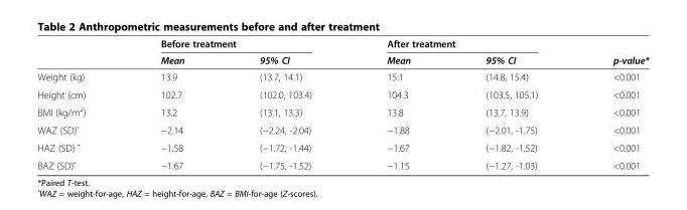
<table><thead><tr><td rowspan="2"></td><td colspan="2">Before treatment</td><td colspan="2">After treatment</td><td rowspan="2">p-value*</td></tr><tr><td>Mean</td><td>95% CI</td><td>Mean</td><td>95% CI</td></tr></thead><tbody><tr><td>Weight (kg)</td><td>13.9</td><td>(13.7, 14.1)</td><td>15.1</td><td>(14.8, 15.4)</td><td>&lt;0.001</td></tr><tr><td>Height (cm)</td><td>102.7</td><td>(102.0, 103.4)</td><td>104.3</td><td>(103.5, 105.1)</td><td>&lt;0.001</td></tr><tr><td>BMI (kg/m<sup>2</sup>)</td><td>13.2</td><td>(13.1, 13.3)</td><td>13.8</td><td>(13.7, 13.9)</td><td>&lt;0.001</td></tr><tr><td>WAZ (SD)<sup>•</sup></td><td>−2.14</td><td>(−2.24, -2.04)</td><td>−1.88</td><td>(−2.01, -1.75)</td><td>&lt;0.001</td></tr><tr><td>HAZ (SD) <sup>•</sup></td><td>−1.58</td><td>(−1.72, -1.44)</td><td>−1.67</td><td>(−1.82, -1.52)</td><td>&lt;0.001</td></tr><tr><td>BAZ (SD)<sup>•</sup></td><td>−1.67</td><td>(−1.75, -1.52)</td><td>−1.15</td><td>(−1.27, -1.03)</td><td>&lt;0.001</td></tr></tbody></table>